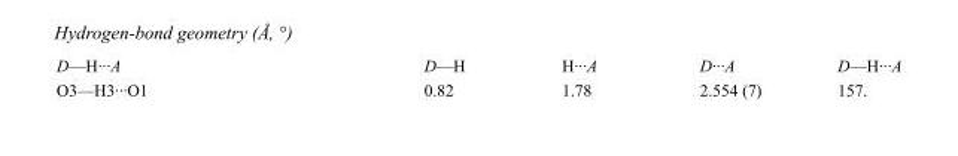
<table><tbody><tr><td>D—H···A</td><td>D—H</td><td>H···A</td><td>D···A</td><td>D—H···A</td></tr><tr><td>O3—H3···O1</td><td>0.82</td><td>1.78</td><td>2.554 (7)</td><td>157.</td></tr></tbody></table>